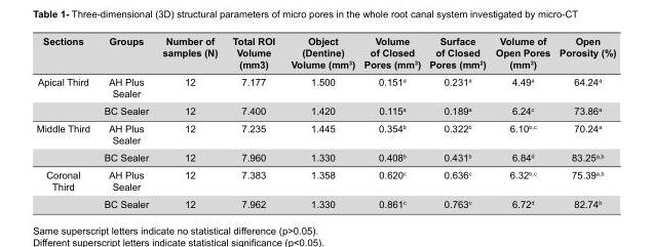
<table><thead><tr><td>Sections</td><td>Groups</td><td>Number of samples (N)</td><td>Total ROI Volume (mm3)</td><td>Object (Dentine) Volume (mm<sup>3</sup>)</td><td>Volume of Closed Pores (mm<sup>3</sup>)</td><td>Surface of Closed Pores (mm<sup>2</sup>)</td><td>Volume of Open Pores (mm<sup>3</sup>)</td><td>Open Porosity (%)</td></tr></thead><tbody><tr><td rowspan="2">Apical Third</td><td>AH Plus Sealer</td><td>12</td><td>7.177</td><td>1.500</td><td>0.151<sup>a</sup></td><td>0.231<sup>a</sup></td><td>4.49<sup>a</sup></td><td>64.24<sup>a</sup></td></tr><tr><td>BC Sealer</td><td>12</td><td>7.400</td><td>1.420</td><td>0.115<sup>a</sup></td><td>0.189<sup>a</sup></td><td>6.24<sup>c</sup></td><td>73.86<sup>a</sup></td></tr><tr><td rowspan="2">Middle Third</td><td>AH Plus Sealer</td><td>12</td><td>7.235</td><td>1.445</td><td>0.354<sup>b</sup></td><td>0.322<sup>b</sup></td><td>6.10<sup>b,c</sup></td><td>70.24<sup>a</sup></td></tr><tr><td>BC Sealer</td><td>12</td><td>7.960</td><td>1.330</td><td>0.408<sup>b</sup></td><td>0.431<sup>b</sup></td><td>6.84<sup>d</sup></td><td>83.25<sup>a,b</sup></td></tr><tr><td rowspan="2">Coronal Third</td><td>AH Plus Sealer</td><td>12</td><td>7.383</td><td>1.358</td><td>0.620<sup>c</sup></td><td>0.636<sup>c</sup></td><td>6.32<sup>b,c</sup></td><td>75.39<sup>a,b</sup></td></tr><tr><td>BC Sealer</td><td>12</td><td>7.962</td><td>1.330</td><td>0.861<sup>c</sup></td><td>0.763<sup>c</sup></td><td>6.72<sup>d</sup></td><td>82.74<sup>b</sup></td></tr></tbody></table>